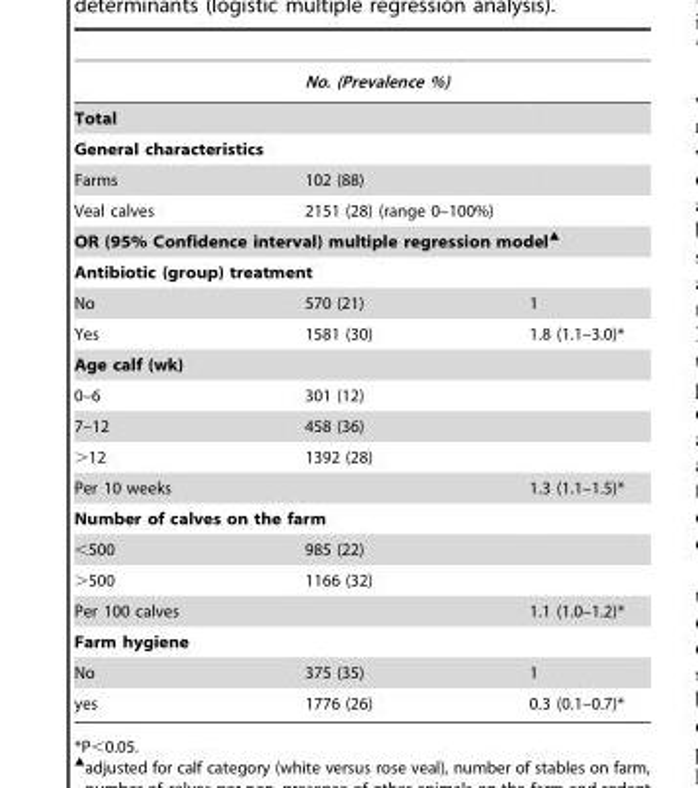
<table><thead><tr><td></td><td>No. (Prevalence %)</td><td></td></tr></thead><tbody><tr><td colspan="3">Total</td></tr><tr><td colspan="3">General characteristics</td></tr><tr><td>Farms</td><td>102 (88)</td><td></td></tr><tr><td>Veal calves</td><td>2151 (28) (range 0–100%)</td><td></td></tr><tr><td colspan="3">OR (95% Confidence interval) multiple regression model▴</td></tr><tr><td colspan="3">Antibiotic (group) treatment</td></tr><tr><td>No</td><td>570 (21)</td><td>1</td></tr><tr><td>Yes</td><td>1581 (30)</td><td>1.8 (1.1–3.0)*</td></tr><tr><td colspan="3">Age calf (wk)</td></tr><tr><td>0–6</td><td>301 (12)</td><td></td></tr><tr><td>7–12</td><td>458 (36)</td><td></td></tr><tr><td>&gt;12</td><td>1392 (28)</td><td></td></tr><tr><td>Per 10 weeks</td><td></td><td>1.3 (1.1–1.5)*</td></tr><tr><td colspan="3">Number of calves on the farm</td></tr><tr><td>&lt;500</td><td>985 (22)</td><td></td></tr><tr><td>&gt;500</td><td>1166 (32)</td><td></td></tr><tr><td>Per 100 calves</td><td></td><td>1.1 (1.0–1.2)*</td></tr><tr><td colspan="3">Farm hygiene</td></tr><tr><td>No</td><td>375 (35)</td><td>1</td></tr><tr><td>yes</td><td>1776 (26)</td><td>0.3 (0.1–0.7)*</td></tr></tbody></table>